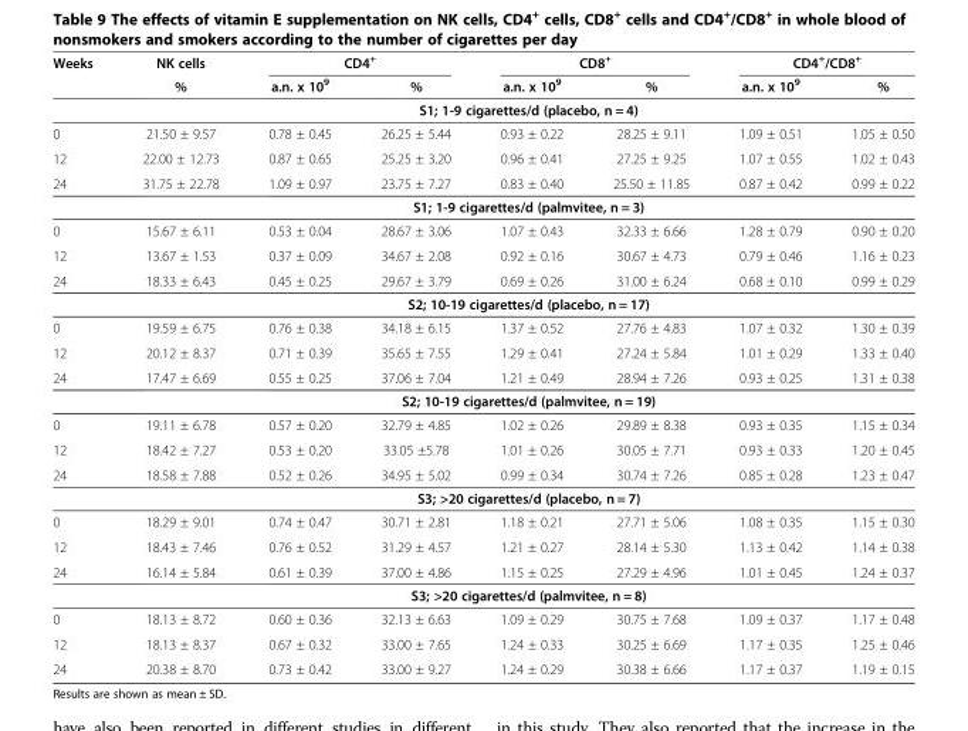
<table><thead><tr><td rowspan="2">Weeks</td><td rowspan="2">NK cells %</td><td colspan="2">CD4<sup>+</sup></td><td colspan="2">CD8<sup>+</sup></td><td colspan="2">CD4<sup>+</sup>/CD8<sup>+</sup></td></tr><tr><td>a.n. x 10<sup>9</sup></td><td>%</td><td>a.n. x 10<sup>9</sup></td><td>%</td><td>a.n. x 10<sup>9</sup></td><td>%</td></tr></thead><tbody><tr><td></td><td colspan="7">S1; 1-9 cigarettes/d (placebo, n = 4)</td></tr><tr><td>0</td><td>21.50 ± 9.57</td><td>0.78 ± 0.45</td><td>26.25 ± 5.44</td><td>0.93 ± 0.22</td><td>28.25 ± 9.11</td><td>1.09 ± 0.51</td><td>1.05 ± 0.50</td></tr><tr><td>12</td><td>22.00 ± 12.73</td><td>0.87 ± 0.65</td><td>25.25 ± 3.20</td><td>0.96 ± 0.41</td><td>27.25 ± 9.25</td><td>1.07 ± 0.55</td><td>1.02 ± 0.43</td></tr><tr><td rowspan="2">24</td><td>31.75 ± 22.78</td><td>1.09 ± 0.97</td><td>23.75 ± 7.27</td><td>0.83 ± 0.40</td><td>25.50 ± 11.85</td><td>0.87 ± 0.42</td><td>0.99 ± 0.22</td></tr><tr><td colspan="7">S1; 1-9 cigarettes/d (palmvitee, n = 3)</td></tr><tr><td>0</td><td>15.67 ± 6.11</td><td>0.53 ± 0.04</td><td>28.67 ± 3.06</td><td>1.07 ± 0.43</td><td>32.33 ± 6.66</td><td>1.28 ± 0.79</td><td>0.90 ± 0.20</td></tr><tr><td>12</td><td>13.67 ± 1.53</td><td>0.37 ± 0.09</td><td>34.67 ± 2.08</td><td>0.92 ± 0.16</td><td>30.67 ± 4.73</td><td>0.79 ± 0.46</td><td>1.16 ± 0.23</td></tr><tr><td rowspan="2">24</td><td>18.33 ± 6.43</td><td>0.45 ± 0.25</td><td>29.67 ± 3.79</td><td>0.69 ± 0.26</td><td>31.00 ± 6.24</td><td>0.68 ± 0.10</td><td>0.99 ± 0.29</td></tr><tr><td colspan="7">S2; 10-19 cigarettes/d (placebo, n = 17)</td></tr><tr><td>0</td><td>19.59 ± 6.75</td><td>0.76 ± 0.38</td><td>34.18 ± 6.15</td><td>1.37 ± 0.52</td><td>27.76 ± 4.83</td><td>1.07 ± 0.32</td><td>1.30 ± 0.39</td></tr><tr><td>12</td><td>20.12 ± 8.37</td><td>0.71 ± 0.39</td><td>35.65 ± 7.55</td><td>1.29 ± 0.41</td><td>27.24 ± 5.84</td><td>1.01 ± 0.29</td><td>1.33 ± 0.40</td></tr><tr><td rowspan="2">24</td><td>17.47 ± 6.69</td><td>0.55 ± 0.25</td><td>37.06 ± 7.04</td><td>1.21 ± 0.49</td><td>28.94 ± 7.26</td><td>0.93 ± 0.25</td><td>1.31 ± 0.38</td></tr><tr><td colspan="7">S2; 10-19 cigarettes/d (palmvitee, n = 19)</td></tr><tr><td>0</td><td>19.11 ± 6.78</td><td>0.57 ± 0.20</td><td>32.79 ± 4.85</td><td>1.02 ± 0.26</td><td>29.89 ± 8.38</td><td>0.93 ± 0.35</td><td>1.15 ± 0.34</td></tr><tr><td>12</td><td>18.42 ± 7.27</td><td>0.53 ± 0.20</td><td>33.05 ±5.78</td><td>1.01 ± 0.26</td><td>30.05 ± 7.71</td><td>0.93 ± 0.33</td><td>1.20 ± 0.45</td></tr><tr><td rowspan="2">24</td><td>18.58 ± 7.88</td><td>0.52 ± 0.26</td><td>34.95 ± 5.02</td><td>0.99 ± 0.34</td><td>30.74 ± 7.26</td><td>0.85 ± 0.28</td><td>1.23 ± 0.47</td></tr><tr><td colspan="7">S3; &gt;20 cigarettes/d (placebo, n = 7)</td></tr><tr><td>0</td><td>18.29 ± 9.01</td><td>0.74 ± 0.47</td><td>30.71 ± 2.81</td><td>1.18 ± 0.21</td><td>27.71 ± 5.06</td><td>1.08 ± 0.35</td><td>1.15 ± 0.30</td></tr><tr><td>12</td><td>18.43 ± 7.46</td><td>0.76 ± 0.52</td><td>31.29 ± 4.57</td><td>1.21 ± 0.27</td><td>28.14 ± 5.30</td><td>1.13 ± 0.42</td><td>1.14 ± 0.38</td></tr><tr><td rowspan="2">24</td><td>16.14 ± 5.84</td><td>0.61 ± 0.39</td><td>37.00 ± 4.86</td><td>1.15 ± 0.25</td><td>27.29 ± 4.96</td><td>1.01 ± 0.45</td><td>1.24 ± 0.37</td></tr><tr><td colspan="7">S3; &gt;20 cigarettes/d (palmvitee, n = 8)</td></tr><tr><td>0</td><td>18.13 ± 8.72</td><td>0.60 ± 0.36</td><td>32.13 ± 6.63</td><td>1.09 ± 0.29</td><td>30.75 ± 7.68</td><td>1.09 ± 0.37</td><td>1.17 ± 0.48</td></tr><tr><td>12</td><td>18.13 ± 8.37</td><td>0.67 ± 0.32</td><td>33.00 ± 7.65</td><td>1.24 ± 0.33</td><td>30.25 ± 6.69</td><td>1.17 ± 0.35</td><td>1.25 ± 0.46</td></tr><tr><td>24</td><td>20.38 ± 8.70</td><td>0.73 ± 0.42</td><td>33.00 ± 9.27</td><td>1.24 ± 0.29</td><td>30.38 ± 6.66</td><td>1.17 ± 0.37</td><td>1.19 ± 0.15</td></tr></tbody></table>